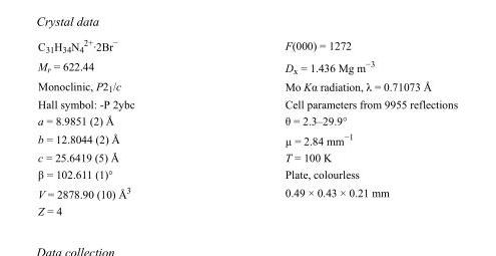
<table><tbody><tr><td>C<sub>31</sub>H<sub>34</sub>N<sub>4</sub> <sup>2+</sup>·2Br<sup>−</sup></td><td>F(000) = 1272</td></tr><tr><td>M<sub>r</sub> = 622.44</td><td>D<sub>x</sub> = 1.436 Mg m<sup>−3</sup></td></tr><tr><td>Monoclinic, P2<sub>1</sub>/c</td><td>Mo Kα radiation, λ = 0.71073 Å</td></tr><tr><td>Hall symbol: -P 2ybc</td><td>Cell parameters from 9955 reflections</td></tr><tr><td>a = 8.9851 (2) Å</td><td>θ = 2.3–29.9°</td></tr><tr><td>b = 12.8044 (2) Å</td><td>µ = 2.84 mm<sup>−1</sup></td></tr><tr><td>c = 25.6419 (5) Å</td><td>T = 100 K</td></tr><tr><td>β = 102.611 (1)°</td><td>Plate, colourless</td></tr><tr><td>V = 2878.90 (10) Å<sup>3</sup></td><td>0.49 × 0.43 × 0.21 mm</td></tr><tr><td>Z = 4</td><td></td></tr></tbody></table>